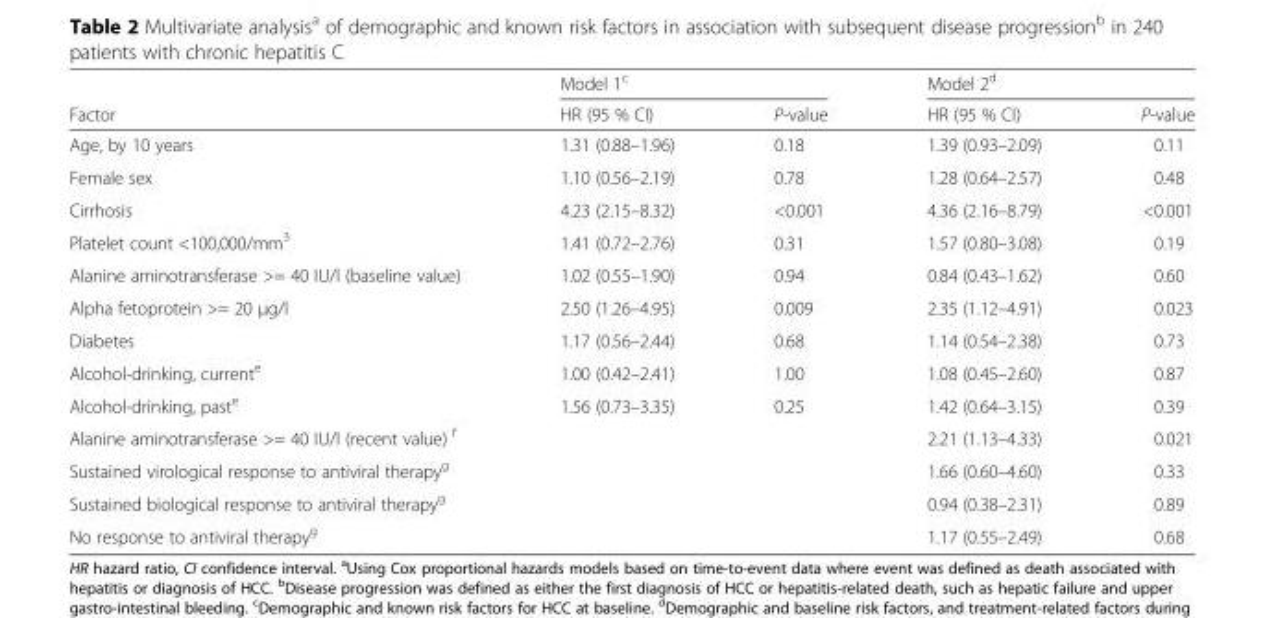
<table><thead><tr><td rowspan="2">Factor</td><td colspan="2">Model 1<sup>c</sup></td><td colspan="2">Model 2<sup>d</sup></td></tr><tr><td>HR (95 % CI)</td><td>P-value</td><td>HR (95 % CI)</td><td>P-value</td></tr></thead><tbody><tr><td>Age, by 10 years</td><td>1.31 (0.88–1.96)</td><td>0.18</td><td>1.39 (0.93–2.09)</td><td>0.11</td></tr><tr><td>Female sex</td><td>1.10 (0.56–2.19)</td><td>0.78</td><td>1.28 (0.64–2.57)</td><td>0.48</td></tr><tr><td>Cirrhosis</td><td>4.23 (2.15–8.32)</td><td>&lt;0.001</td><td>4.36 (2.16–8.79)</td><td>&lt;0.001</td></tr><tr><td>Platelet count &lt;100,000/mm<sup>3</sup></td><td>1.41 (0.72–2.76)</td><td>0.31</td><td>1.57 (0.80–3.08)</td><td>0.19</td></tr><tr><td>Alanine aminotransferase &gt;= 40 IU/l (baseline value)</td><td>1.02 (0.55–1.90)</td><td>0.94</td><td>0.84 (0.43–1.62)</td><td>0.60</td></tr><tr><td>Alpha fetoprotein &gt;= 20 μg/l</td><td>2.50 (1.26–4.95)</td><td>0.009</td><td>2.35 (1.12–4.91)</td><td>0.023</td></tr><tr><td>Diabetes</td><td>1.17 (0.56–2.44)</td><td>0.68</td><td>1.14 (0.54–2.38)</td><td>0.73</td></tr><tr><td>Alcohol-drinking, current<sup>e</sup></td><td>1.00 (0.42–2.41)</td><td>1.00</td><td>1.08 (0.45–2.60)</td><td>0.87</td></tr><tr><td>Alcohol-drinking, past<sup>e</sup></td><td>1.56 (0.73–3.35)</td><td>0.25</td><td>1.42 (0.64–3.15)</td><td>0.39</td></tr><tr><td>Alanine aminotransferase &gt;= 40 IU/l (recent value) <sup>f</sup></td><td></td><td></td><td>2.21 (1.13–4.33)</td><td>0.021</td></tr><tr><td>Sustained virological response to antiviral therapy<sup>g</sup></td><td></td><td></td><td>1.66 (0.60–4.60)</td><td>0.33</td></tr><tr><td>Sustained biological response to antiviral therapy<sup>g</sup></td><td></td><td></td><td>0.94 (0.38–2.31)</td><td>0.89</td></tr><tr><td>No response to antiviral therapy<sup>g</sup></td><td></td><td></td><td>1.17 (0.55–2.49)</td><td>0.68</td></tr></tbody></table>